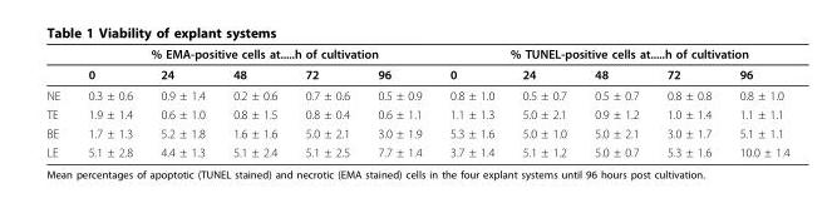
<table><thead><tr><td rowspan="2"></td><td colspan="5">% EMA-positive cells at.....h of cultivation</td><td colspan="5">% TUNEL-positive cells at.....h of cultivation</td></tr><tr><td>0</td><td>24</td><td>48</td><td>72</td><td>96</td><td>0</td><td>24</td><td>48</td><td>72</td><td>96</td></tr></thead><tbody><tr><td>NE</td><td>0.3 ± 0.6</td><td>0.9 ± 1.4</td><td>0.2 ± 0.6</td><td>0.7 ± 0.6</td><td>0.5 ± 0.9</td><td>0.8 ± 1.0</td><td>0.5 ± 0.7</td><td>0.5 ± 0.7</td><td>0.8 ± 0.8</td><td>0.8 ± 1.0</td></tr><tr><td>TE</td><td>1.9 ± 1.4</td><td>0.6 ± 1.0</td><td>0.8 ± 1.5</td><td>0.8 ± 0.4</td><td>0.6 ± 1.1</td><td>1.1 ± 1.3</td><td>5.0 ± 2.1</td><td>0.9 ± 1.2</td><td>1.0 ± 1.4</td><td>1.1 ± 1.1</td></tr><tr><td>BE</td><td>1.7 ± 1.3</td><td>5.2 ± 1.8</td><td>1.6 ± 1.6</td><td>5.0 ± 2.1</td><td>3.0 ± 1.9</td><td>5.3 ± 1.6</td><td>5.0 ± 1.0</td><td>5.0 ± 2.1</td><td>3.0 ± 1.7</td><td>5.1 ± 1.1</td></tr><tr><td>LE</td><td>5.1 ± 2.8</td><td>4.4 ± 1.3</td><td>5.1 ± 2.4</td><td>5.1 ± 2.5</td><td>7.7 ± 1.4</td><td>3.7 ± 1.4</td><td>5.1 ± 1.2</td><td>5.0 ± 0.7</td><td>5.3 ± 1.6</td><td>10.0 ± 1.4</td></tr></tbody></table>